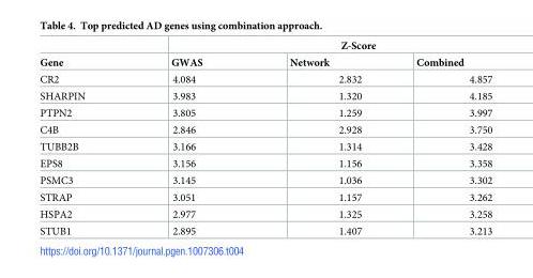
<table><thead><tr><td rowspan="2">Gene</td><td colspan="3">Z-Score</td></tr><tr><td>GWAS</td><td>Network</td><td>Combined</td></tr></thead><tbody><tr><td>CR2</td><td>4.084</td><td>2.832</td><td>4.857</td></tr><tr><td>SHARPIN</td><td>3.983</td><td>1.320</td><td>4.185</td></tr><tr><td>PTPN2</td><td>3.805</td><td>1.259</td><td>3.997</td></tr><tr><td>C4B</td><td>2.846</td><td>2.928</td><td>3.750</td></tr><tr><td>TUBB2B</td><td>3.166</td><td>1.314</td><td>3.428</td></tr><tr><td>EPS8</td><td>3.156</td><td>1.156</td><td>3.358</td></tr><tr><td>PSMC3</td><td>3.145</td><td>1.036</td><td>3.302</td></tr><tr><td>STRAP</td><td>3.051</td><td>1.157</td><td>3.262</td></tr><tr><td>HSPA2</td><td>2.977</td><td>1.325</td><td>3.258</td></tr><tr><td>STUB1</td><td>2.895</td><td>1.407</td><td>3.213</td></tr></tbody></table>